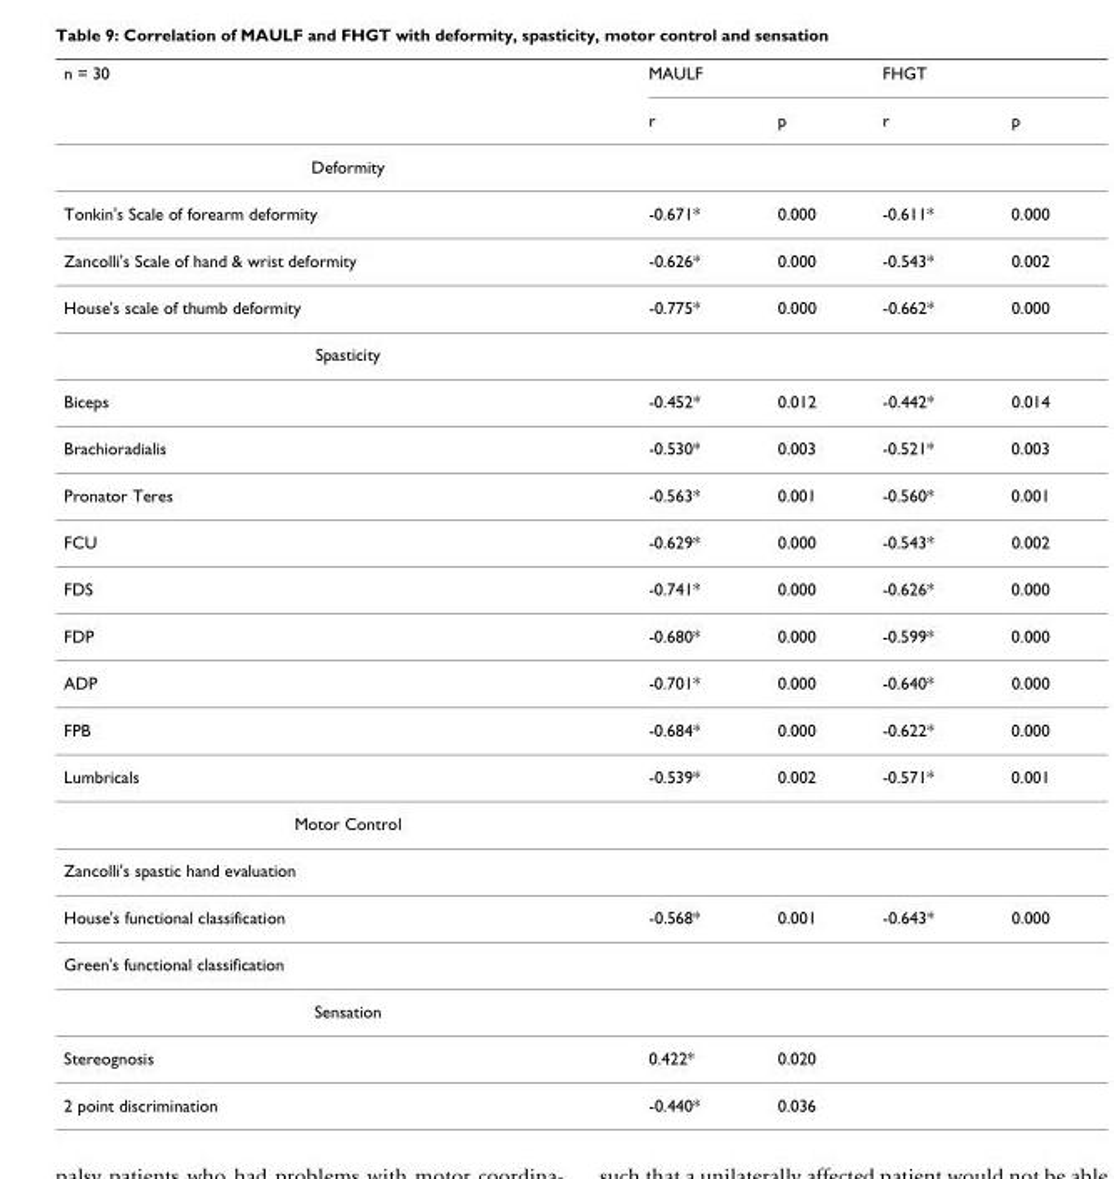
<table><thead><tr><td rowspan="2">n = 30</td><td colspan="2">MAULF</td><td colspan="2">FHGT</td></tr><tr><td>r</td><td>p</td><td>r</td><td>p</td></tr></thead><tbody><tr><td colspan="5">Deformity</td></tr><tr><td>Tonkin&#x27;s Scale of forearm deformity</td><td>-0.671*</td><td>0.000</td><td>-0.611*</td><td>0.000</td></tr><tr><td>Zancolli&#x27;s Scale of hand &amp; wrist deformity</td><td>-0.626*</td><td>0.000</td><td>-0.543*</td><td>0.002</td></tr><tr><td>House&#x27;s scale of thumb deformity</td><td>-0.775*</td><td>0.000</td><td>-0.662*</td><td>0.000</td></tr><tr><td colspan="5">Spasticity</td></tr><tr><td>Biceps</td><td>-0.452*</td><td>0.012</td><td>-0.442*</td><td>0.014</td></tr><tr><td>Brachioradialis</td><td>-0.530*</td><td>0.003</td><td>-0.521*</td><td>0.003</td></tr><tr><td>Pronator Teres</td><td>-0.563*</td><td>0.001</td><td>-0.560*</td><td>0.001</td></tr><tr><td>FCU</td><td>-0.629*</td><td>0.000</td><td>-0.543*</td><td>0.002</td></tr><tr><td>FDS</td><td>-0.741*</td><td>0.000</td><td>-0.626*</td><td>0.000</td></tr><tr><td>FDP</td><td>-0.680*</td><td>0.000</td><td>-0.599*</td><td>0.000</td></tr><tr><td>ADP</td><td>-0.701*</td><td>0.000</td><td>-0.640*</td><td>0.000</td></tr><tr><td>FPB</td><td>-0.684*</td><td>0.000</td><td>-0.622*</td><td>0.000</td></tr><tr><td>Lumbricals</td><td>-0.539*</td><td>0.002</td><td>-0.571*</td><td>0.001</td></tr><tr><td colspan="5">Motor Control</td></tr><tr><td colspan="5">Zancolli&#x27;s spastic hand evaluation</td></tr><tr><td>House&#x27;s functional classification</td><td>-0.568*</td><td>0.001</td><td>-0.643*</td><td>0.000</td></tr><tr><td colspan="5">Green&#x27;s functional classification</td></tr><tr><td colspan="5">Sensation</td></tr><tr><td>Stereognosis</td><td>0.422*</td><td>0.020</td><td></td><td></td></tr><tr><td>2 point discrimination</td><td>-0.440*</td><td>0.036</td><td></td><td></td></tr></tbody></table>